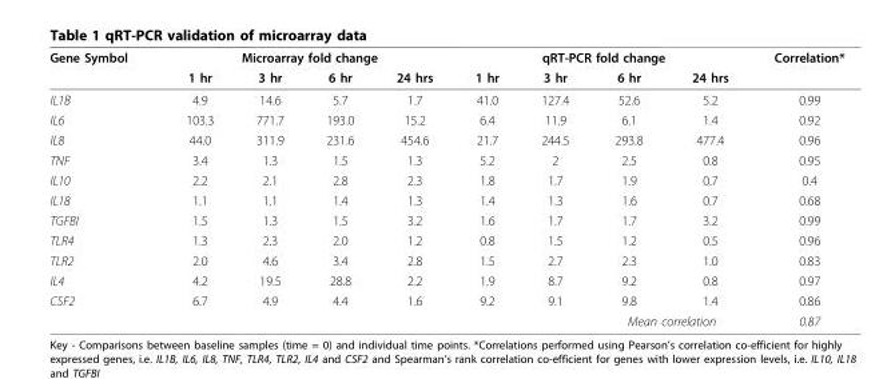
<table><thead><tr><td rowspan="2">Gene Symbol</td><td colspan="4">Microarray fold change</td><td colspan="4">qRT-PCR fold change</td><td rowspan="2">Correlation*</td></tr><tr><td>1 hr</td><td>3 hr</td><td>6 hr</td><td>24 hrs</td><td>1 hr</td><td>3 hr</td><td>6 hr</td><td>24 hrs</td></tr></thead><tbody><tr><td>IL1B</td><td>4.9</td><td>14.6</td><td>5.7</td><td>1.7</td><td>41.0</td><td>127.4</td><td>52.6</td><td>5.2</td><td>0.99</td></tr><tr><td>IL6</td><td>103.3</td><td>771.7</td><td>193.0</td><td>15.2</td><td>6.4</td><td>11.9</td><td>6.1</td><td>1.4</td><td>0.92</td></tr><tr><td>IL8</td><td>44.0</td><td>311.9</td><td>231.6</td><td>454.6</td><td>21.7</td><td>244.5</td><td>293.8</td><td>477.4</td><td>0.96</td></tr><tr><td>TNF</td><td>3.4</td><td>1.3</td><td>1.5</td><td>1.3</td><td>5.2</td><td>2</td><td>2.5</td><td>0.8</td><td>0.95</td></tr><tr><td>IL10</td><td>2.2</td><td>2.1</td><td>2.8</td><td>2.3</td><td>1.8</td><td>1.7</td><td>1.9</td><td>0.7</td><td>0.4</td></tr><tr><td>IL18</td><td>1.1</td><td>1.1</td><td>1.4</td><td>1.3</td><td>1.4</td><td>1.3</td><td>1.6</td><td>0.7</td><td>0.68</td></tr><tr><td>TGFBI</td><td>1.5</td><td>1.3</td><td>1.5</td><td>3.2</td><td>1.6</td><td>1.7</td><td>1.7</td><td>3.2</td><td>0.99</td></tr><tr><td>TLR4</td><td>1.3</td><td>2.3</td><td>2.0</td><td>1.2</td><td>0.8</td><td>1.5</td><td>1.2</td><td>0.5</td><td>0.96</td></tr><tr><td>TLR2</td><td>2.0</td><td>4.6</td><td>3.4</td><td>2.8</td><td>1.5</td><td>2.7</td><td>2.3</td><td>1.0</td><td>0.83</td></tr><tr><td>IL4</td><td>4.2</td><td>19.5</td><td>28.8</td><td>2.2</td><td>1.9</td><td>8.7</td><td>9.2</td><td>0.8</td><td>0.97</td></tr><tr><td>CSF2</td><td>6.7</td><td>4.9</td><td>4.4</td><td>1.6</td><td>9.2</td><td>9.1</td><td>9.8</td><td>1.4</td><td>0.86</td></tr><tr><td colspan="7"></td><td colspan="2">Mean correlation</td><td>0.87</td></tr></tbody></table>